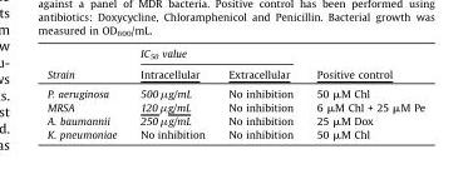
<table><thead><tr><td rowspan="2">Strain</td><td colspan="2">IC<sub>50</sub> value</td><td rowspan="2">Positive control</td></tr><tr><td>Intracellular</td><td>Extracellular</td></tr></thead><tbody><tr><td>P. aeruginosa</td><td>500 μg/mL</td><td>No inhibition</td><td>50 μM Chl</td></tr><tr><td>MRSA</td><td>120 μg/mL</td><td>No inhibition</td><td>6 μM Chl + 25 μM Pe</td></tr><tr><td>A. baumannii</td><td>250 μg/mL</td><td>No inhibition</td><td>25 μM Dox</td></tr><tr><td>K. pneumoniae</td><td>No inhibition</td><td>No inhibition</td><td>50 μM Chl</td></tr></tbody></table>